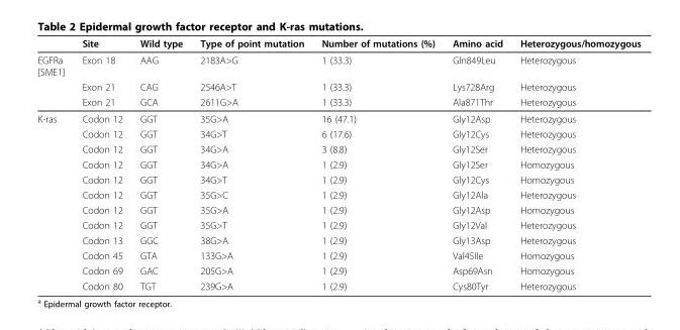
<table><thead><tr><td></td><td>Site</td><td>Wild type</td><td>Type of point mutation</td><td>Number of mutations (%)</td><td>Amino acid</td><td>Heterozygous/homozygous</td></tr></thead><tbody><tr><td rowspan="3">EGFRa [SME1]</td><td>Exon 18</td><td>AAG</td><td>2183A&gt;G</td><td>1 (33.3)</td><td>Gln849Leu</td><td>Heterozygous</td></tr><tr><td>Exon 21</td><td>CAG</td><td>2546A&gt;T</td><td>1 (33.3)</td><td>Lys728Arg</td><td>Heterozygous</td></tr><tr><td>Exon 21</td><td>GCA</td><td>2611G&gt;A</td><td>1 (33.3)</td><td>Ala871Thr</td><td>Heterozygous</td></tr><tr><td rowspan="12">K-ras</td><td>Codon 12</td><td>GGT</td><td>35G&gt;A</td><td>16 (47.1)</td><td>Gly12Asp</td><td>Heterozygous</td></tr><tr><td>Codon 12</td><td>GGT</td><td>34G&gt;T</td><td>6 (17.6)</td><td>Gly12Cys</td><td>Heterozygous</td></tr><tr><td>Codon 12</td><td>GGT</td><td>34G&gt;A</td><td>3 (8.8)</td><td>Gly12Ser</td><td>Heterozygous</td></tr><tr><td>Codon 12</td><td>GGT</td><td>34G&gt;A</td><td>1 (2.9)</td><td>Gly12Ser</td><td>Homozygous</td></tr><tr><td>Codon 12</td><td>GGT</td><td>34G&gt;T</td><td>1 (2.9)</td><td>Gly12Cys</td><td>Homozygous</td></tr><tr><td>Codon 12</td><td>GGT</td><td>35G&gt;C</td><td>1 (2.9)</td><td>Gly12Ala</td><td>Heterozygous</td></tr><tr><td>Codon 12</td><td>GGT</td><td>35G&gt;A</td><td>1 (2.9)</td><td>Gly12Asp</td><td>Homozygous</td></tr><tr><td>Codon 12</td><td>GGT</td><td>35G&gt;T</td><td>1 (2.9)</td><td>Gly12Val</td><td>Heterozygous</td></tr><tr><td>Codon 13</td><td>GGC</td><td>38G&gt;A</td><td>1 (2.9)</td><td>Gly13Asp</td><td>Heterozygous</td></tr><tr><td>Codon 45</td><td>GTA</td><td>133G&gt;A</td><td>1 (2.9)</td><td>Val45Ile</td><td>Homozygous</td></tr><tr><td>Codon 69</td><td>GAC</td><td>205G&gt;A</td><td>1 (2.9)</td><td>Asp69Asn</td><td>Homozygous</td></tr><tr><td>Codon 80</td><td>TGT</td><td>239G&gt;A</td><td>1 (2.9)</td><td>Cys80Tyr</td><td>Heterozygous</td></tr></tbody></table>